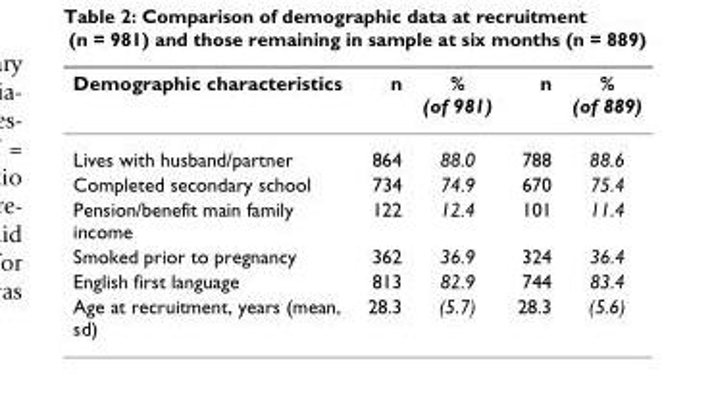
<table><thead><tr><td>Demographic characteristics</td><td>n</td><td>% (of 981)</td><td>n</td><td>% (of 889)</td></tr></thead><tbody><tr><td>Lives with husband/partner</td><td>864</td><td>88.0</td><td>788</td><td>88.6</td></tr><tr><td>Completed secondary school</td><td>734</td><td>74.9</td><td>670</td><td>75.4</td></tr><tr><td>Pension/benefit main family income</td><td>122</td><td>12.4</td><td>101</td><td>11.4</td></tr><tr><td>Smoked prior to pregnancy</td><td>362</td><td>36.9</td><td>324</td><td>36.4</td></tr><tr><td>English first language</td><td>813</td><td>82.9</td><td>744</td><td>83.4</td></tr><tr><td>Age at recruitment, years (mean, sd)</td><td>28.3</td><td>(5.7)</td><td>28.3</td><td>(5.6)</td></tr></tbody></table>